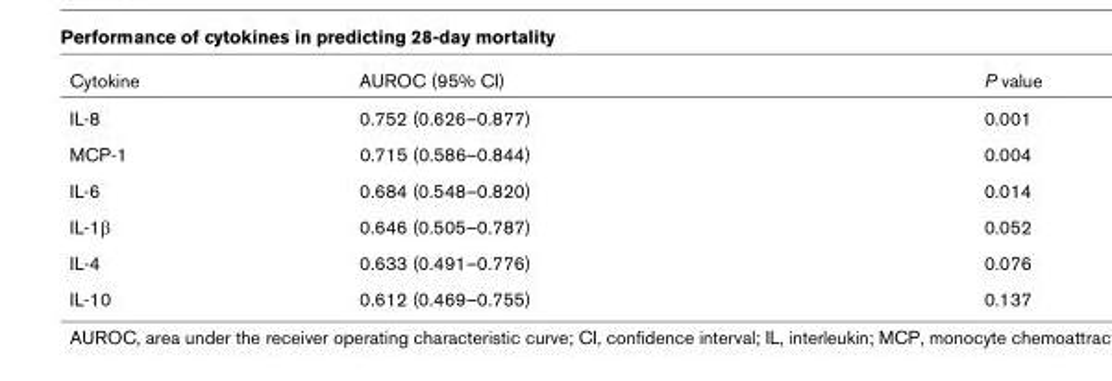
<table><thead><tr><td>Cytokine</td><td>AUROC (95% CI)</td><td>P value</td></tr></thead><tbody><tr><td>IL-8</td><td>0.752 (0.626–0.877)</td><td>0.001</td></tr><tr><td>MCP-1</td><td>0.715 (0.586–0.844)</td><td>0.004</td></tr><tr><td>IL-6</td><td>0.684 (0.548–0.820)</td><td>0.014</td></tr><tr><td>IL-1β</td><td>0.646 (0.505–0.787)</td><td>0.052</td></tr><tr><td>IL-4</td><td>0.633 (0.491–0.776)</td><td>0.076</td></tr><tr><td>IL-10</td><td>0.612 (0.469–0.755)</td><td>0.137</td></tr></tbody></table>